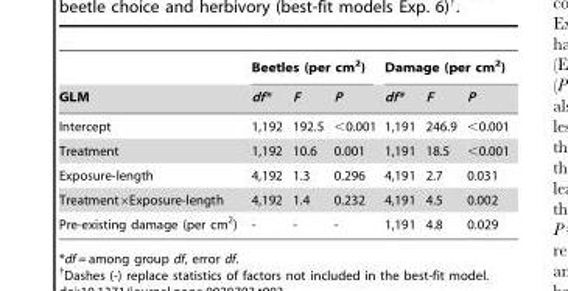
<table><thead><tr><td rowspan="2">GLM</td><td colspan="3">Beetles (per cm<sup>2</sup>)</td><td colspan="3">Damage (per cm<sup>2</sup>)</td></tr><tr><td>df*</td><td>F</td><td>P</td><td>df*</td><td>F</td><td>P</td></tr></thead><tbody><tr><td>Intercept</td><td>1,192</td><td>192.5</td><td>&lt;0.001</td><td>1,191</td><td>246.9</td><td>&lt;0.001</td></tr><tr><td>Treatment</td><td>1,192</td><td>10.6</td><td>0.001</td><td>1,191</td><td>18.5</td><td>&lt;0.001</td></tr><tr><td>Exposure-length</td><td>4,192</td><td>1.3</td><td>0.296</td><td>4,191</td><td>2.7</td><td>0.031</td></tr><tr><td>Treatment×Exposure-length</td><td>4,192</td><td>1.4</td><td>0.232</td><td>4,191</td><td>4.5</td><td>0.002</td></tr><tr><td>Pre-existing damage (per cm<sup>2</sup>)</td><td>-</td><td>-</td><td>-</td><td>1,191</td><td>4.8</td><td>0.029</td></tr></tbody></table>